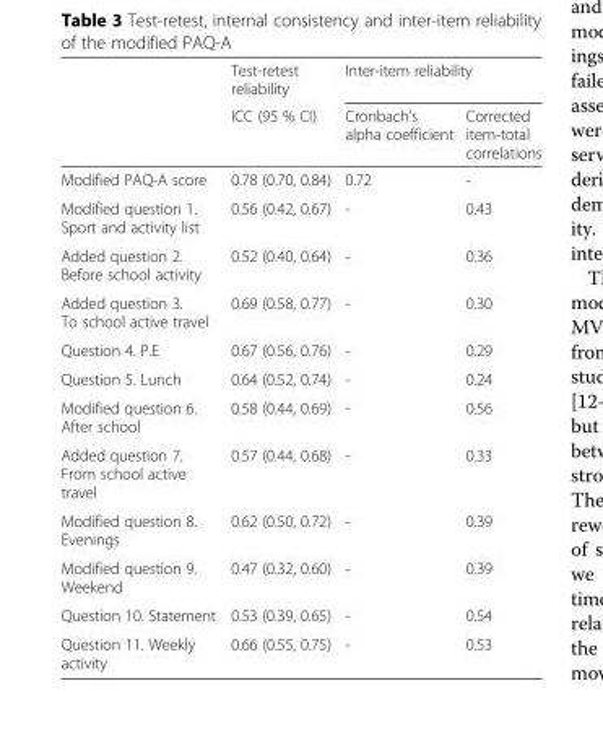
<table><thead><tr><td rowspan="2"></td><td rowspan="2">Test-retest reliability ICC (95 % CI)</td><td colspan="2">Inter-item reliability</td></tr><tr><td>Cronbach’s alpha coefficient</td><td>Corrected item-total correlations</td></tr></thead><tbody><tr><td>Modified PAQ-A score</td><td>0.78 (0.70, 0.84)</td><td>0.72</td><td>-</td></tr><tr><td>Modified question 1. Sport and activity list</td><td>0.56 (0.42, 0.67)</td><td>-</td><td>0.43</td></tr><tr><td>Added question 2. Before school activity</td><td>0.52 (0.40, 0.64)</td><td>-</td><td>0.36</td></tr><tr><td>Added question 3. To school active travel</td><td>0.69 (0.58, 0.77)</td><td>-</td><td>0.30</td></tr><tr><td>Question 4. P.E</td><td>0.67 (0.56, 0.76)</td><td>-</td><td>0.29</td></tr><tr><td>Question 5. Lunch</td><td>0.64 (0.52, 0.74)</td><td>-</td><td>0.24</td></tr><tr><td>Modified question 6. After school</td><td>0.58 (0.44, 0.69)</td><td>-</td><td>0.56</td></tr><tr><td>Added question 7. From school active travel</td><td>0.57 (0.44, 0.68)</td><td>-</td><td>0.33</td></tr><tr><td>Modified question 8. Evenings</td><td>0.62 (0.50, 0.72)</td><td>-</td><td>0.39</td></tr><tr><td>Modified question 9. Weekend</td><td>0.47 (0.32, 0.60)</td><td>-</td><td>0.39</td></tr><tr><td>Question 10. Statement</td><td>0.53 (0.39, 0.65)</td><td>-</td><td>0.54</td></tr><tr><td>Question 11. Weekly activity</td><td>0.66 (0.55, 0.75)</td><td>-</td><td>0.53</td></tr></tbody></table>